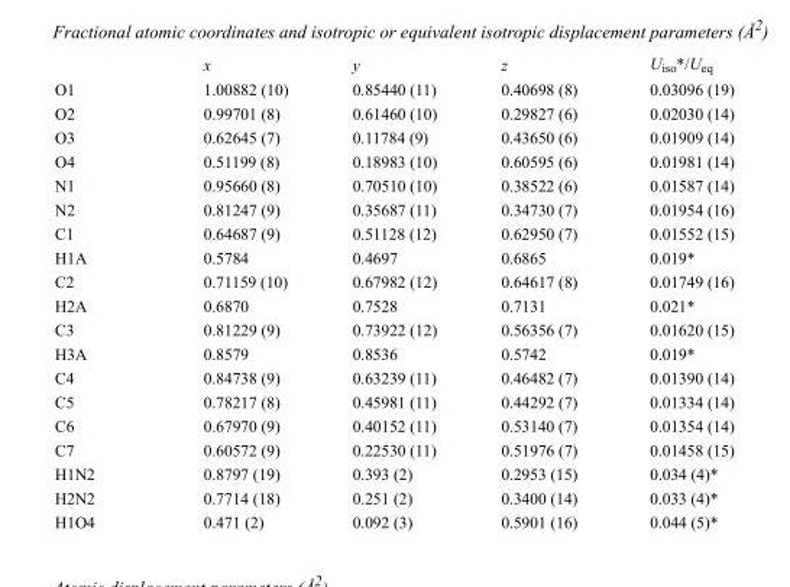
<table><thead><tr><td></td><td>x</td><td>y</td><td>z</td><td>U<sub>iso</sub>*/U<sub>eq</sub></td></tr></thead><tbody><tr><td>O1</td><td>1.00882 (10)</td><td>0.85440 (11)</td><td>0.40698 (8)</td><td>0.03096 (19)</td></tr><tr><td>O2</td><td>0.99701 (8)</td><td>0.61460 (10)</td><td>0.29827 (6)</td><td>0.02030 (14)</td></tr><tr><td>O3</td><td>0.62645 (7)</td><td>0.11784 (9)</td><td>0.43650 (6)</td><td>0.01909 (14)</td></tr><tr><td>O4</td><td>0.51199 (8)</td><td>0.18983 (10)</td><td>0.60595 (6)</td><td>0.01981 (14)</td></tr><tr><td>N1</td><td>0.95660 (8)</td><td>0.70510 (10)</td><td>0.38522 (6)</td><td>0.01587 (14)</td></tr><tr><td>N2</td><td>0.81247 (9)</td><td>0.35687 (11)</td><td>0.34730 (7)</td><td>0.01954 (16)</td></tr><tr><td>C1</td><td>0.64687 (9)</td><td>0.51128 (12)</td><td>0.62950 (7)</td><td>0.01552 (15)</td></tr><tr><td>H1A</td><td>0.5784</td><td>0.4697</td><td>0.6865</td><td>0.019*</td></tr><tr><td>C2</td><td>0.71159 (10)</td><td>0.67982 (12)</td><td>0.64617 (8)</td><td>0.01749 (16)</td></tr><tr><td>H2A</td><td>0.6870</td><td>0.7528</td><td>0.7131</td><td>0.021*</td></tr><tr><td>C3</td><td>0.81229 (9)</td><td>0.73922 (12)</td><td>0.56356 (7)</td><td>0.01620 (15)</td></tr><tr><td>H3A</td><td>0.8579</td><td>0.8536</td><td>0.5742</td><td>0.019*</td></tr><tr><td>C4</td><td>0.84738 (9)</td><td>0.63239 (11)</td><td>0.46482 (7)</td><td>0.01390 (14)</td></tr><tr><td>C5</td><td>0.78217 (8)</td><td>0.45981 (11)</td><td>0.44292 (7)</td><td>0.01334 (14)</td></tr><tr><td>C6</td><td>0.67970 (9)</td><td>0.40152 (11)</td><td>0.53140 (7)</td><td>0.01354 (14)</td></tr><tr><td>C7</td><td>0.60572 (9)</td><td>0.22530 (11)</td><td>0.51976 (7)</td><td>0.01458 (15)</td></tr><tr><td>H1N2</td><td>0.8797 (19)</td><td>0.393 (2)</td><td>0.2953 (15)</td><td>0.034 (4)*</td></tr><tr><td>H2N2</td><td>0.7714 (18)</td><td>0.251 (2)</td><td>0.3400 (14)</td><td>0.033 (4)*</td></tr><tr><td>H1O4</td><td>0.471 (2)</td><td>0.092 (3)</td><td>0.5901 (16)</td><td>0.044 (5)*</td></tr></tbody></table>